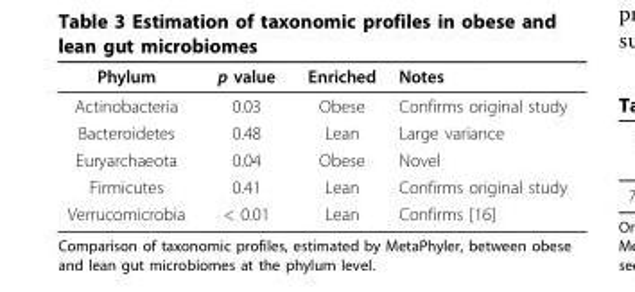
<table><thead><tr><td>Phylum</td><td>p value</td><td>Enriched</td><td>Notes</td></tr></thead><tbody><tr><td>Actinobacteria</td><td>0.03</td><td>Obese</td><td>Confirms original study</td></tr><tr><td>Bacteroidetes</td><td>0.48</td><td>Lean</td><td>Large variance</td></tr><tr><td>Euryarchaeota</td><td>0.04</td><td>Obese</td><td>Novel</td></tr><tr><td>Firmicutes</td><td>0.41</td><td>Lean</td><td>Confirms original study</td></tr><tr><td>Verrucomicrobia</td><td>&lt; 0.01</td><td>Lean</td><td>Confirms [16]</td></tr></tbody></table>